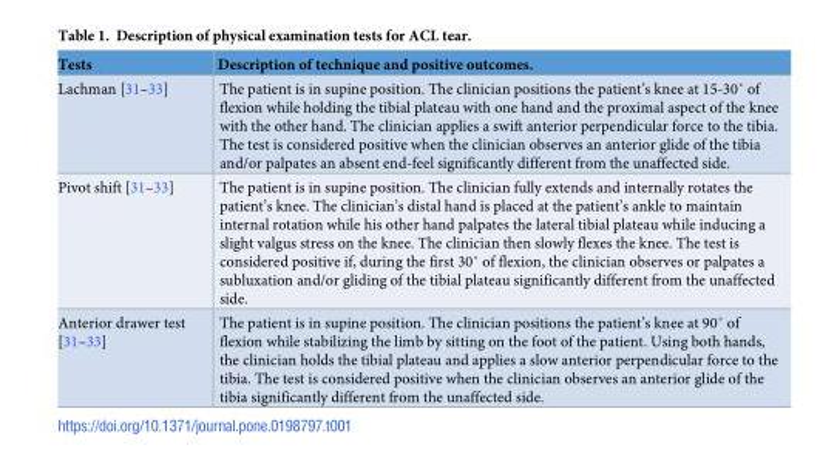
<table><thead><tr><td>Tests</td><td>Description of technique and positive outcomes.</td></tr></thead><tbody><tr><td>Lachman [31–33]</td><td>The patient is in supine position. The clinician positions the patient’s knee at 15-30˚ of flexion while holding the tibial plateau with one hand and the proximal aspect of the knee with the other hand. The clinician applies a swift anterior perpendicular force to the tibia. The test is considered positive when the clinician observes an anterior glide of the tibia and/or palpates an absent end-feel significantly different from the unaffected side.</td></tr><tr><td>Pivot shift [31–33]</td><td>The patient is in supine position. The clinician fully extends and internally rotates the patient’s knee. The clinician’s distal hand is placed at the patient’s ankle to maintain internal rotation while his other hand palpates the lateral tibial plateau while inducing a slight valgus stress on the knee. The clinician then slowly flexes the knee. The test is considered positive if, during the first 30˚ of flexion, the clinician observes or palpates a subluxation and/or gliding of the tibial plateau significantly different from the unaffected side.</td></tr><tr><td>Anterior drawer test [31–33]</td><td>The patient is in supine position. The clinician positions the patient’s knee at 90˚ of flexion while stabilizing the limb by sitting on the foot of the patient. Using both hands, the clinician holds the tibial plateau and applies a slow anterior perpendicular force to the tibia. The test is considered positive when the clinician observes an anterior glide of the tibia significantly different from the unaffected side.</td></tr></tbody></table>